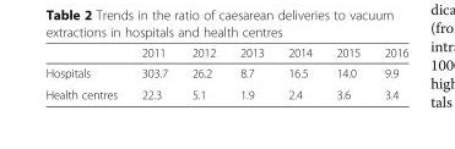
<table><thead><tr><td></td><td>2011</td><td>2012</td><td>2013</td><td>2014</td><td>2015</td><td>2016</td></tr></thead><tbody><tr><td>Hospitals</td><td>303.7</td><td>26.2</td><td>8.7</td><td>16.5</td><td>14.0</td><td>9.9</td></tr><tr><td>Health centres</td><td>22.3</td><td>5.1</td><td>1.9</td><td>2.4</td><td>3.6</td><td>3.4</td></tr></tbody></table>